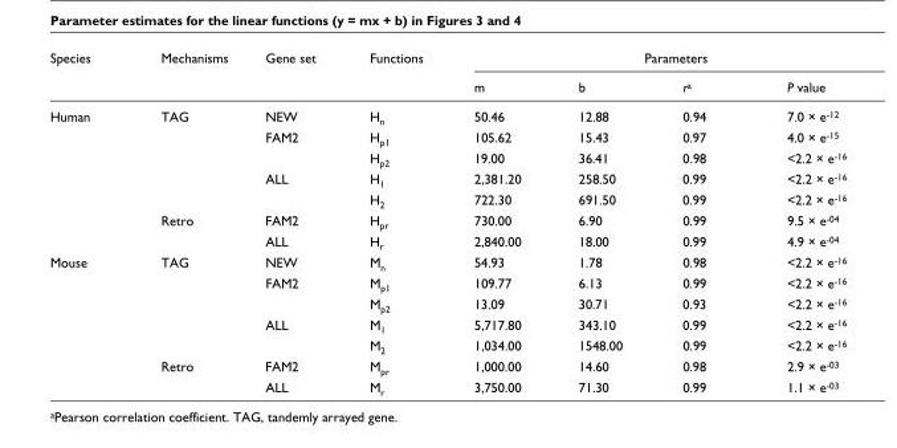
<table><thead><tr><td rowspan="2">Species</td><td rowspan="2">Mechanisms</td><td rowspan="2">Gene set</td><td rowspan="2">Functions</td><td colspan="4">Parameters</td></tr><tr><td>m</td><td>b</td><td>r<sup>a</sup></td><td>P value</td></tr></thead><tbody><tr><td rowspan="7">Human</td><td>TAG</td><td>NEW</td><td>H<sub>n</sub></td><td>50.46</td><td>12.88</td><td>0.94</td><td>7.0 × e<sup>-12</sup></td></tr><tr><td></td><td>FAM2</td><td>H<sub>p1</sub></td><td>105.62</td><td>15.43</td><td>0.97</td><td>4.0 × e<sup>-15</sup></td></tr><tr><td></td><td></td><td>H<sub>p2</sub></td><td>19.00</td><td>36.41</td><td>0.98</td><td>&lt;2.2 × e<sup>-16</sup></td></tr><tr><td></td><td>ALL</td><td>H<sub>1</sub></td><td>2,381.20</td><td>258.50</td><td>0.99</td><td>&lt;2.2 × e<sup>-16</sup></td></tr><tr><td></td><td></td><td>H<sub>2</sub></td><td>722.30</td><td>691.50</td><td>0.99</td><td>&lt;2.2 × e<sup>-16</sup></td></tr><tr><td>Retro</td><td>FAM2</td><td>H<sub>pr</sub></td><td>730.00</td><td>6.90</td><td>0.99</td><td>9.5 × e<sup>-04</sup></td></tr><tr><td></td><td>ALL</td><td>H<sub>r</sub></td><td>2,840.00</td><td>18.00</td><td>0.99</td><td>4.9 × e<sup>-04</sup></td></tr><tr><td rowspan="7">Mouse</td><td>TAG</td><td>NEW</td><td>M<sub>n</sub></td><td>54.93</td><td>1.78</td><td>0.98</td><td>&lt;2.2 × e<sup>-16</sup></td></tr><tr><td></td><td>FAM2</td><td>M<sub>p1</sub></td><td>109.77</td><td>6.13</td><td>0.99</td><td>&lt;2.2 × e<sup>-16</sup></td></tr><tr><td></td><td></td><td>M<sub>p2</sub></td><td>13.09</td><td>30.71</td><td>0.93</td><td>&lt;2.2 × e<sup>-16</sup></td></tr><tr><td></td><td>ALL</td><td>M<sub>1</sub></td><td>5,717.80</td><td>343.10</td><td>0.99</td><td>&lt;2.2 × e<sup>-16</sup></td></tr><tr><td></td><td></td><td>M<sub>2</sub></td><td>1,034.00</td><td>1548.00</td><td>0.99</td><td>&lt;2.2 × e<sup>-16</sup></td></tr><tr><td>Retro</td><td>FAM2</td><td>M<sub>pr</sub></td><td>1,000.00</td><td>14.60</td><td>0.98</td><td>2.9 × e<sup>-03</sup></td></tr><tr><td></td><td>ALL</td><td>M<sub>r</sub></td><td>3,750.00</td><td>71.30</td><td>0.99</td><td>1.1 × e<sup>-03</sup></td></tr></tbody></table>